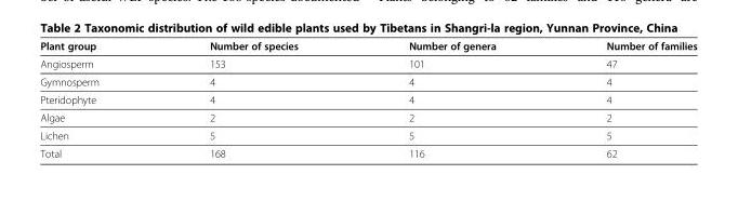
<table><thead><tr><td>Plant group</td><td>Number of species</td><td>Number of genera</td><td>Number of families</td></tr></thead><tbody><tr><td>Angiosperm</td><td>153</td><td>101</td><td>47</td></tr><tr><td>Gymnosperm</td><td>4</td><td>4</td><td>4</td></tr><tr><td>Pteridophyte</td><td>4</td><td>4</td><td>4</td></tr><tr><td>Algae</td><td>2</td><td>2</td><td>2</td></tr><tr><td>Lichen</td><td>5</td><td>5</td><td>5</td></tr><tr><td>Total</td><td>168</td><td>116</td><td>62</td></tr></tbody></table>